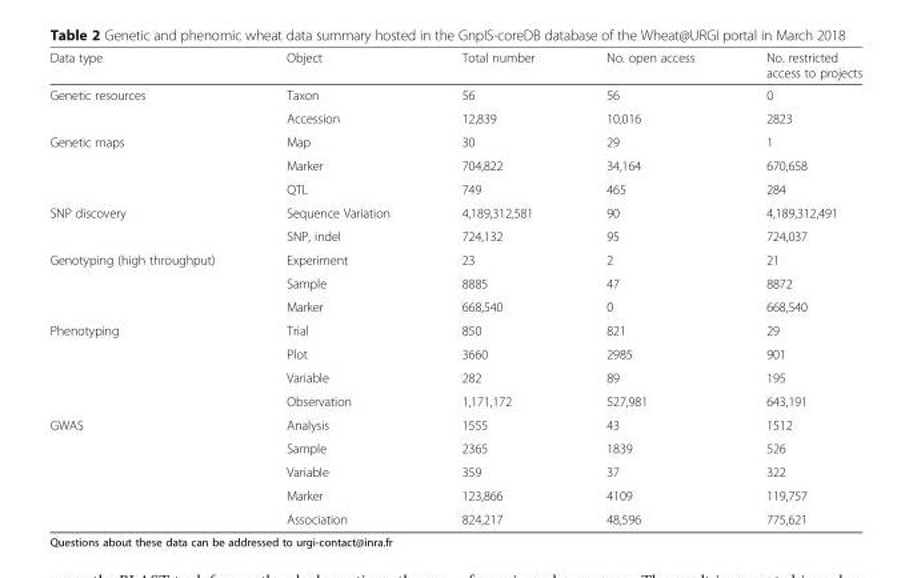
<table><thead><tr><td>Data type</td><td>Object</td><td>Total number</td><td>No. open access</td><td>No. restricted access to projects</td></tr></thead><tbody><tr><td rowspan="2">Genetic resources</td><td>Taxon</td><td>56</td><td>56</td><td>0</td></tr><tr><td>Accession</td><td>12,839</td><td>10,016</td><td>2823</td></tr><tr><td rowspan="3">Genetic maps</td><td>Map</td><td>30</td><td>29</td><td>1</td></tr><tr><td>Marker</td><td>704,822</td><td>34,164</td><td>670,658</td></tr><tr><td>QTL</td><td>749</td><td>465</td><td>284</td></tr><tr><td rowspan="2">SNP discovery</td><td>Sequence Variation</td><td>4,189,312,581</td><td>90</td><td>4,189,312,491</td></tr><tr><td>SNP, indel</td><td>724,132</td><td>95</td><td>724,037</td></tr><tr><td rowspan="3">Genotyping (high throughput)</td><td>Experiment</td><td>23</td><td>2</td><td>21</td></tr><tr><td>Sample</td><td>8885</td><td>47</td><td>8872</td></tr><tr><td>Marker</td><td>668,540</td><td>0</td><td>668,540</td></tr><tr><td rowspan="4">Phenotyping</td><td>Trial</td><td>850</td><td>821</td><td>29</td></tr><tr><td>Plot</td><td>3660</td><td>2985</td><td>901</td></tr><tr><td>Variable</td><td>282</td><td>89</td><td>195</td></tr><tr><td>Observation</td><td>1,171,172</td><td>527,981</td><td>643,191</td></tr><tr><td rowspan="5">GWAS</td><td>Analysis</td><td>1555</td><td>43</td><td>1512</td></tr><tr><td>Sample</td><td>2365</td><td>1839</td><td>526</td></tr><tr><td>Variable</td><td>359</td><td>37</td><td>322</td></tr><tr><td>Marker</td><td>123,866</td><td>4109</td><td>119,757</td></tr><tr><td>Association</td><td>824,217</td><td>48,596</td><td>775,621</td></tr></tbody></table>